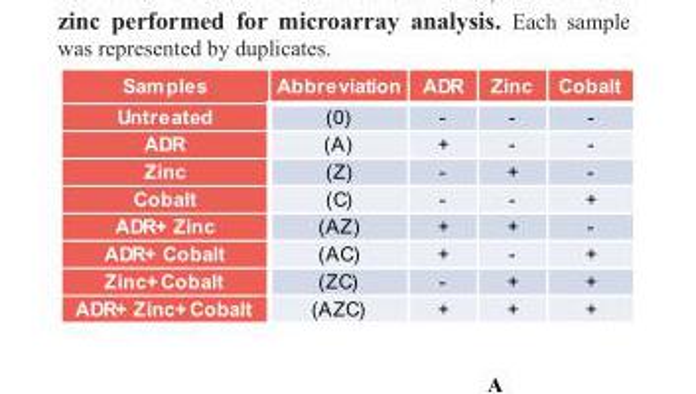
<table><thead><tr><td>Samples</td><td>Abbreviation</td><td>ADR</td><td>Zinc</td><td>Cobalt</td></tr></thead><tbody><tr><td>Untreated</td><td>(0)</td><td>-</td><td>-</td><td>-</td></tr><tr><td>ADR</td><td>(A)</td><td>+</td><td>-</td><td>-</td></tr><tr><td>Zinc</td><td>(Z)</td><td>-</td><td>+</td><td>-</td></tr><tr><td>Cobalt</td><td>(C)</td><td>-</td><td>-</td><td>+</td></tr><tr><td>ADR+ Zinc</td><td>(AZ)</td><td>+</td><td>+</td><td>-</td></tr><tr><td>ADR+ Cobalt</td><td>(AC)</td><td>+</td><td>-</td><td>+</td></tr><tr><td>Zinc+ Cobalt</td><td>(ZC)</td><td>-</td><td>+</td><td>+</td></tr><tr><td>ADR+ Zinc+ Cobalt</td><td>(AZC)</td><td>+</td><td>+</td><td>+</td></tr></tbody></table>